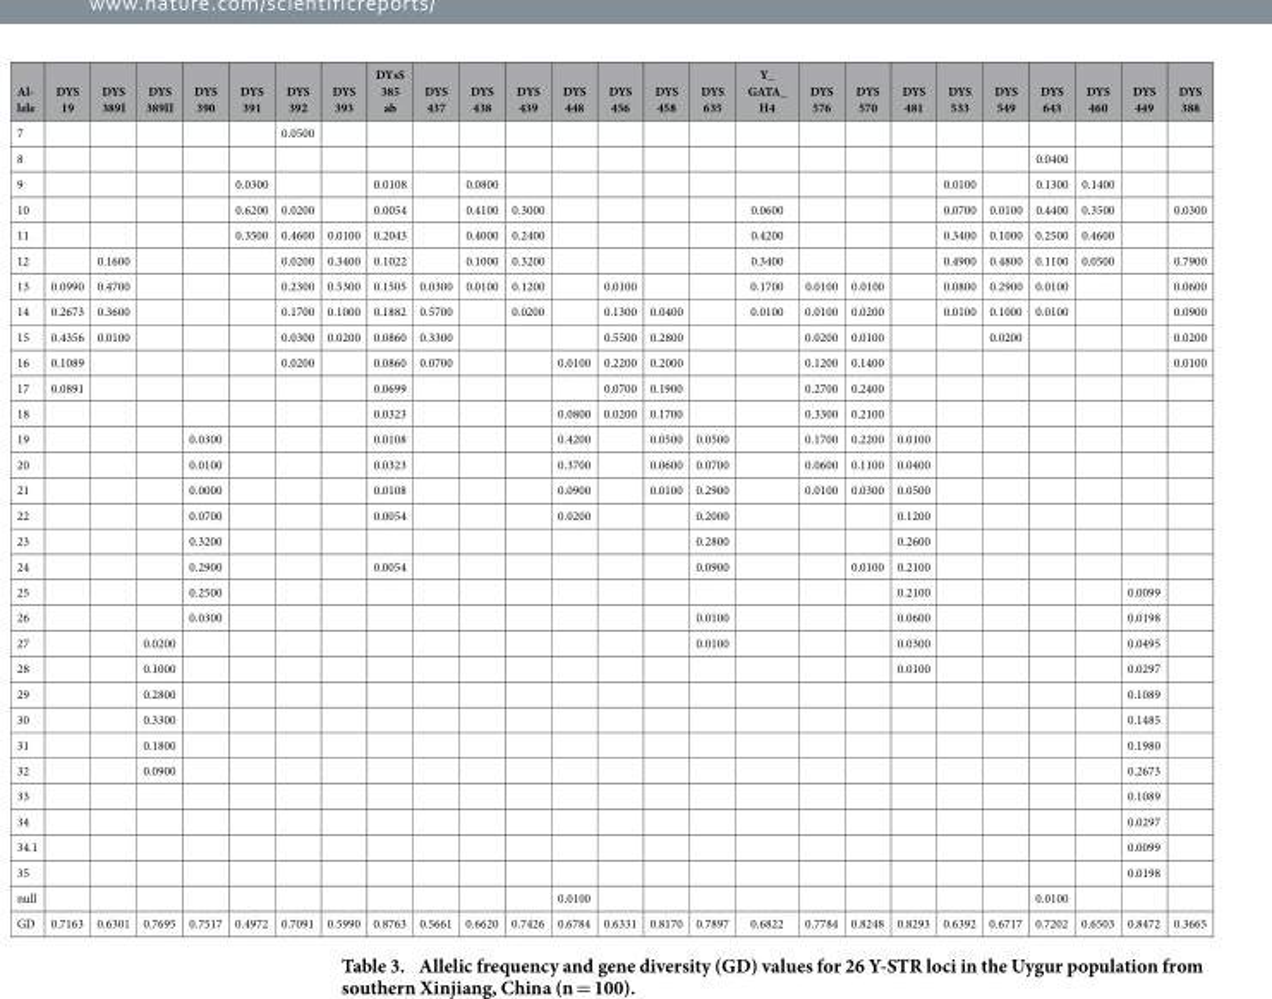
<table><thead><tr><td>Al- lele</td><td>DYS 19</td><td>DYS 389I</td><td>DYS 389II</td><td>DYS 390</td><td>DYS 391</td><td>DYS 392</td><td>DYS 393</td><td>DYsS 385 ab</td><td>DYS 437</td><td>DYS 438</td><td>DYS 439</td><td>DYS 448</td><td>DYS 456</td><td>DYS 458</td><td>DYS 635</td><td>Y_ GATA_ H4</td><td>DYS 576</td><td>DYS 570</td><td>DYS 481</td><td>DYS 533</td><td>DYS 549</td><td>DYS 643</td><td>DYS 460</td><td>DYS 449</td><td>DYS 388</td></tr></thead><tbody><tr><td>7</td><td></td><td></td><td></td><td></td><td></td><td>0.0500</td><td></td><td></td><td></td><td></td><td></td><td></td><td></td><td></td><td></td><td></td><td></td><td></td><td></td><td></td><td></td><td></td><td></td><td></td><td></td></tr><tr><td>8</td><td></td><td></td><td></td><td></td><td></td><td></td><td></td><td></td><td></td><td></td><td></td><td></td><td></td><td></td><td></td><td></td><td></td><td></td><td></td><td></td><td></td><td>0.0400</td><td></td><td></td><td></td></tr><tr><td>9</td><td></td><td></td><td></td><td></td><td>0.0300</td><td></td><td></td><td>0.0108</td><td></td><td>0.0800</td><td></td><td></td><td></td><td></td><td></td><td></td><td></td><td></td><td></td><td>0.0100</td><td></td><td>0.1300</td><td>0.1400</td><td></td><td></td></tr><tr><td>10</td><td></td><td></td><td></td><td></td><td>0.6200</td><td>0.0200</td><td></td><td>0.0054</td><td></td><td>0.4100</td><td>0.3000</td><td></td><td></td><td></td><td></td><td>0.0600</td><td></td><td></td><td></td><td>0.0700</td><td>0.0100</td><td>0.4400</td><td>0.3500</td><td></td><td>0.0300</td></tr><tr><td>11</td><td></td><td></td><td></td><td></td><td>0.3500</td><td>0.4600</td><td>0.0100</td><td>0.2043</td><td></td><td>0.4000</td><td>0.2400</td><td></td><td></td><td></td><td></td><td>0.4200</td><td></td><td></td><td></td><td>0.3400</td><td>0.1000</td><td>0.2500</td><td>0.4600</td><td></td><td></td></tr><tr><td>12</td><td></td><td>0.1600</td><td></td><td></td><td></td><td>0.0200</td><td>0.3400</td><td>0.1022</td><td></td><td>0.1000</td><td>0.3200</td><td></td><td></td><td></td><td></td><td>0.3400</td><td></td><td></td><td></td><td>0.4900</td><td>0.4800</td><td>0.1100</td><td>0.0500</td><td></td><td>0.7900</td></tr><tr><td>13</td><td>0.0990</td><td>0.4700</td><td></td><td></td><td></td><td>0.2300</td><td>0.5300</td><td>0.1505</td><td>0.0300</td><td>0.0100</td><td>0.1200</td><td></td><td>0.0100</td><td></td><td></td><td>0.1700</td><td>0.0100</td><td>0.0100</td><td></td><td>0.0800</td><td>0.2900</td><td>0.0100</td><td></td><td></td><td>0.0600</td></tr><tr><td>14</td><td>0.2673</td><td>0.3600</td><td></td><td></td><td></td><td>0.1700</td><td>0.1000</td><td>0.1882</td><td>0.5700</td><td></td><td>0.0200</td><td></td><td>0.1300</td><td>0.0400</td><td></td><td>0.0100</td><td>0.0100</td><td>0.0200</td><td></td><td>0.0100</td><td>0.1000</td><td>0.0100</td><td></td><td></td><td>0.0900</td></tr><tr><td>15</td><td>0.4356</td><td>0.0100</td><td></td><td></td><td></td><td>0.0300</td><td>0.0200</td><td>0.0860</td><td>0.3300</td><td></td><td></td><td></td><td>0.5500</td><td>0.2800</td><td></td><td></td><td>0.0200</td><td>0.0100</td><td></td><td></td><td>0.0200</td><td></td><td></td><td></td><td>0.0200</td></tr><tr><td>16</td><td>0.1089</td><td></td><td></td><td></td><td></td><td>0.0200</td><td></td><td>0.0860</td><td>0.0700</td><td></td><td></td><td>0.0100</td><td>0.2200</td><td>0.2000</td><td></td><td></td><td>0.1200</td><td>0.1400</td><td></td><td></td><td></td><td></td><td></td><td></td><td>0.0100</td></tr><tr><td>17</td><td>0.0891</td><td></td><td></td><td></td><td></td><td></td><td></td><td>0.0699</td><td></td><td></td><td></td><td></td><td>0.0700</td><td>0.1900</td><td></td><td></td><td>0.2700</td><td>0.2400</td><td></td><td></td><td></td><td></td><td></td><td></td><td></td></tr><tr><td>18</td><td></td><td></td><td></td><td></td><td></td><td></td><td></td><td>0.0323</td><td></td><td></td><td></td><td>0.0800</td><td>0.0200</td><td>0.1700</td><td></td><td></td><td>0.3300</td><td>0.2100</td><td></td><td></td><td></td><td></td><td></td><td></td><td></td></tr><tr><td>19</td><td></td><td></td><td></td><td>0.0300</td><td></td><td></td><td></td><td>0.0108</td><td></td><td></td><td></td><td>0.4200</td><td></td><td>0.0500</td><td>0.0500</td><td></td><td>0.1700</td><td>0.2200</td><td>0.0100</td><td></td><td></td><td></td><td></td><td></td><td></td></tr><tr><td>20</td><td></td><td></td><td></td><td>0.0100</td><td></td><td></td><td></td><td>0.0323</td><td></td><td></td><td></td><td>0.3700</td><td></td><td>0.0600</td><td>0.0700</td><td></td><td>0.0600</td><td>0.1100</td><td>0.0400</td><td></td><td></td><td></td><td></td><td></td><td></td></tr><tr><td>21</td><td></td><td></td><td></td><td>0.0000</td><td></td><td></td><td></td><td>0.0108</td><td></td><td></td><td></td><td>0.0900</td><td></td><td>0.0100</td><td>0.2900</td><td></td><td>0.0100</td><td>0.0300</td><td>0.0500</td><td></td><td></td><td></td><td></td><td></td><td></td></tr><tr><td>22</td><td></td><td></td><td></td><td>0.0700</td><td></td><td></td><td></td><td>0.0054</td><td></td><td></td><td></td><td>0.0200</td><td></td><td></td><td>0.2000</td><td></td><td></td><td></td><td>0.1200</td><td></td><td></td><td></td><td></td><td></td><td></td></tr><tr><td>23</td><td></td><td></td><td></td><td>0.3200</td><td></td><td></td><td></td><td></td><td></td><td></td><td></td><td></td><td></td><td></td><td>0.2800</td><td></td><td></td><td></td><td>0.2600</td><td></td><td></td><td></td><td></td><td></td><td></td></tr><tr><td>24</td><td></td><td></td><td></td><td>0.2900</td><td></td><td></td><td></td><td>0.0054</td><td></td><td></td><td></td><td></td><td></td><td></td><td>0.0900</td><td></td><td></td><td>0.0100</td><td>0.2100</td><td></td><td></td><td></td><td></td><td></td><td></td></tr><tr><td>25</td><td></td><td></td><td></td><td>0.2500</td><td></td><td></td><td></td><td></td><td></td><td></td><td></td><td></td><td></td><td></td><td></td><td></td><td></td><td></td><td>0.2100</td><td></td><td></td><td></td><td></td><td>0.0099</td><td></td></tr><tr><td>26</td><td></td><td></td><td></td><td>0.0300</td><td></td><td></td><td></td><td></td><td></td><td></td><td></td><td></td><td></td><td></td><td>0.0100</td><td></td><td></td><td></td><td>0.0600</td><td></td><td></td><td></td><td></td><td>0.0198</td><td></td></tr><tr><td>27</td><td></td><td></td><td>0.0200</td><td></td><td></td><td></td><td></td><td></td><td></td><td></td><td></td><td></td><td></td><td></td><td>0.0100</td><td></td><td></td><td></td><td>0.0300</td><td></td><td></td><td></td><td></td><td>0.0495</td><td></td></tr><tr><td>28</td><td></td><td></td><td>0.1000</td><td></td><td></td><td></td><td></td><td></td><td></td><td></td><td></td><td></td><td></td><td></td><td></td><td></td><td></td><td></td><td>0.0100</td><td></td><td></td><td></td><td></td><td>0.0297</td><td></td></tr><tr><td>29</td><td></td><td></td><td>0.2800</td><td></td><td></td><td></td><td></td><td></td><td></td><td></td><td></td><td></td><td></td><td></td><td></td><td></td><td></td><td></td><td></td><td></td><td></td><td></td><td></td><td>0.1089</td><td></td></tr><tr><td>30</td><td></td><td></td><td>0.3300</td><td></td><td></td><td></td><td></td><td></td><td></td><td></td><td></td><td></td><td></td><td></td><td></td><td></td><td></td><td></td><td></td><td></td><td></td><td></td><td></td><td>0.1485</td><td></td></tr><tr><td>31</td><td></td><td></td><td>0.1800</td><td></td><td></td><td></td><td></td><td></td><td></td><td></td><td></td><td></td><td></td><td></td><td></td><td></td><td></td><td></td><td></td><td></td><td></td><td></td><td></td><td>0.1980</td><td></td></tr><tr><td>32</td><td></td><td></td><td>0.0900</td><td></td><td></td><td></td><td></td><td></td><td></td><td></td><td></td><td></td><td></td><td></td><td></td><td></td><td></td><td></td><td></td><td></td><td></td><td></td><td></td><td>0.2673</td><td></td></tr><tr><td>33</td><td></td><td></td><td></td><td></td><td></td><td></td><td></td><td></td><td></td><td></td><td></td><td></td><td></td><td></td><td></td><td></td><td></td><td></td><td></td><td></td><td></td><td></td><td></td><td>0.1089</td><td></td></tr><tr><td>34</td><td></td><td></td><td></td><td></td><td></td><td></td><td></td><td></td><td></td><td></td><td></td><td></td><td></td><td></td><td></td><td></td><td></td><td></td><td></td><td></td><td></td><td></td><td></td><td>0.0297</td><td></td></tr><tr><td>34.1</td><td></td><td></td><td></td><td></td><td></td><td></td><td></td><td></td><td></td><td></td><td></td><td></td><td></td><td></td><td></td><td></td><td></td><td></td><td></td><td></td><td></td><td></td><td></td><td>0.0099</td><td></td></tr><tr><td>35</td><td></td><td></td><td></td><td></td><td></td><td></td><td></td><td></td><td></td><td></td><td></td><td></td><td></td><td></td><td></td><td></td><td></td><td></td><td></td><td></td><td></td><td></td><td></td><td>0.0198</td><td></td></tr><tr><td>null</td><td></td><td></td><td></td><td></td><td></td><td></td><td></td><td></td><td></td><td></td><td></td><td>0.0100</td><td></td><td></td><td></td><td></td><td></td><td></td><td></td><td></td><td></td><td>0.0100</td><td></td><td></td><td></td></tr><tr><td>GD</td><td>0.7163</td><td>0.6301</td><td>0.7695</td><td>0.7517</td><td>0.4972</td><td>0.7091</td><td>0.5990</td><td>0.8763</td><td>0.5661</td><td>0.6620</td><td>0.7426</td><td>0.6784</td><td>0.6331</td><td>0.8170</td><td>0.7897</td><td>0.6822</td><td>0.7784</td><td>0.8248</td><td>0.8293</td><td>0.6392</td><td>0.6717</td><td>0.7202</td><td>0.6503</td><td>0.8472</td><td>0.3665</td></tr></tbody></table>